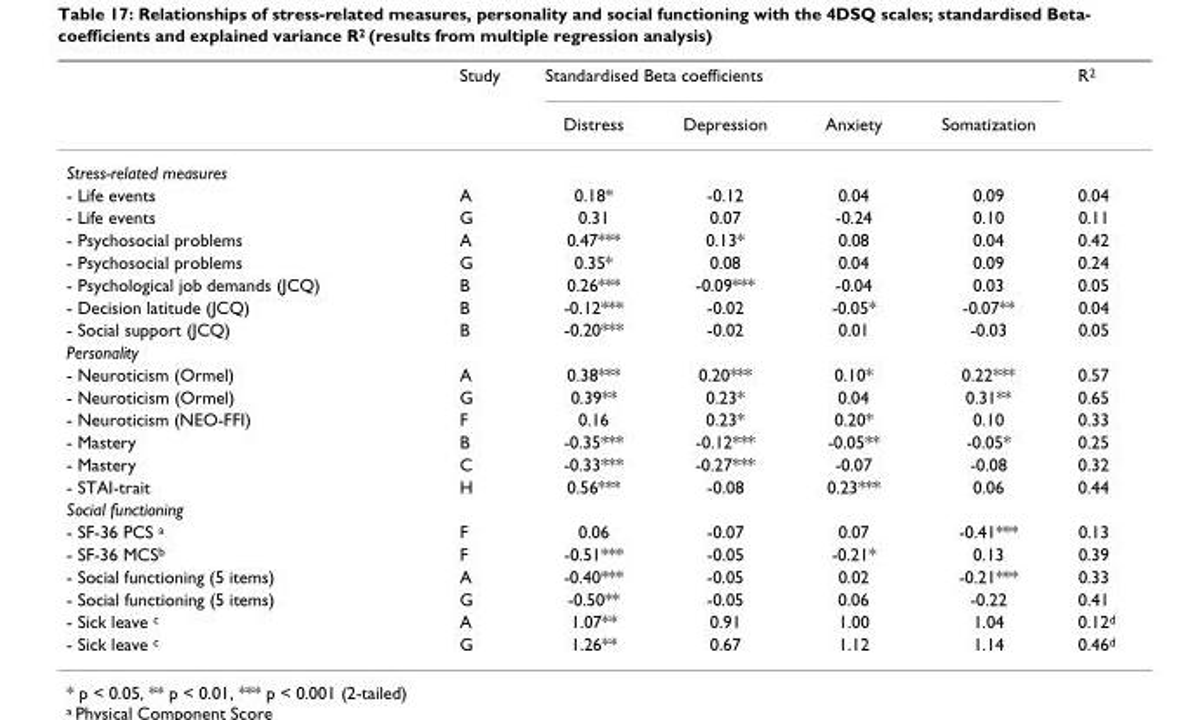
<table><thead><tr><td rowspan="2"></td><td rowspan="2">Study</td><td colspan="4">Standardised Beta coefficients</td><td rowspan="2">R<sup>2</sup></td></tr><tr><td>Distress</td><td>Depression</td><td>Anxiety</td><td>Somatization</td></tr></thead><tbody><tr><td colspan="7">Stress-related measures</td></tr><tr><td>- Life events</td><td>A</td><td>0.18*</td><td>-0.12</td><td>0.04</td><td>0.09</td><td>0.04</td></tr><tr><td>- Life events</td><td>G</td><td>0.31</td><td>0.07</td><td>-0.24</td><td>0.10</td><td>0.11</td></tr><tr><td>- Psychosocial problems</td><td>A</td><td>0.47***</td><td>0.13*</td><td>0.08</td><td>0.04</td><td>0.42</td></tr><tr><td>- Psychosocial problems</td><td>G</td><td>0.35*</td><td>0.08</td><td>0.04</td><td>0.09</td><td>0.24</td></tr><tr><td>- Psychological job demands (JCQ)</td><td>B</td><td>0.26***</td><td>-0.09***</td><td>-0.04</td><td>0.03</td><td>0.05</td></tr><tr><td>- Decision latitude (JCQ)</td><td>B</td><td>-0.12***</td><td>-0.02</td><td>-0.05*</td><td>-0.07**</td><td>0.04</td></tr><tr><td>- Social support (JCQ)</td><td>B</td><td>-0.20***</td><td>-0.02</td><td>0.01</td><td>-0.03</td><td>0.05</td></tr><tr><td colspan="7">Personality</td></tr><tr><td>- Neuroticism (Ormel)</td><td>A</td><td>0.38***</td><td>0.20***</td><td>0.10*</td><td>0.22***</td><td>0.57</td></tr><tr><td>- Neuroticism (Ormel)</td><td>G</td><td>0.39**</td><td>0.23*</td><td>0.04</td><td>0.31**</td><td>0.65</td></tr><tr><td>- Neuroticism (NEO-FFI)</td><td>F</td><td>0.16</td><td>0.23*</td><td>0.20*</td><td>0.10</td><td>0.33</td></tr><tr><td>- Mastery</td><td>B</td><td>-0.35***</td><td>-0.12***</td><td>-0.05**</td><td>-0.05*</td><td>0.25</td></tr><tr><td>- Mastery</td><td>C</td><td>-0.33***</td><td>-0.27***</td><td>-0.07</td><td>-0.08</td><td>0.32</td></tr><tr><td>- STAI-trait</td><td>H</td><td>0.56***</td><td>-0.08</td><td>0.23***</td><td>0.06</td><td>0.44</td></tr><tr><td colspan="7">Social functioning</td></tr><tr><td>- SF-36 PCS <sup>a</sup></td><td>F</td><td>0.06</td><td>-0.07</td><td>0.07</td><td>-0.41***</td><td>0.13</td></tr><tr><td>- SF-36 MCS<sup>b</sup></td><td>F</td><td>-0.51***</td><td>-0.05</td><td>-0.21*</td><td>0.13</td><td>0.39</td></tr><tr><td>- Social functioning (5 items)</td><td>A</td><td>-0.40***</td><td>-0.05</td><td>0.02</td><td>-0.21***</td><td>0.33</td></tr><tr><td>- Social functioning (5 items)</td><td>G</td><td>-0.50**</td><td>-0.05</td><td>0.06</td><td>-0.22</td><td>0.41</td></tr><tr><td>- Sick leave <sup>c</sup></td><td>A</td><td>1.07**</td><td>0.91</td><td>1.00</td><td>1.04</td><td>0.12<sup>d</sup></td></tr><tr><td>- Sick leave <sup>c</sup></td><td>G</td><td>1.26**</td><td>0.67</td><td>1.12</td><td>1.14</td><td>0.46<sup>d</sup></td></tr></tbody></table>